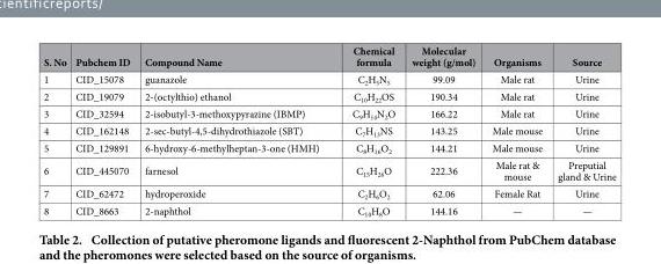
<table><thead><tr><td>S. No</td><td>Pubchem ID</td><td>Compound Name</td><td>Chemical formula</td><td>Molecular weight (g/mol)</td><td>Organisms</td><td>Source</td></tr></thead><tbody><tr><td>1</td><td>CID_15078</td><td>guanazole</td><td>C<sub>2</sub>H<sub>5</sub>N<sub>5</sub></td><td>99.09</td><td>Male rat</td><td>Urine</td></tr><tr><td>2</td><td>CID_19079</td><td>2-(octylthio) ethanol</td><td>C<sub>10</sub>H<sub>22</sub>OS</td><td>190.34</td><td>Male rat</td><td>Urine</td></tr><tr><td>3</td><td>CID_32594</td><td>2-isobutyl-3-methoxypyrazine (IBMP)</td><td>C<sub>9</sub>H<sub>14</sub>N<sub>2</sub>O</td><td>166.22</td><td>Male rat</td><td>Urine</td></tr><tr><td>4</td><td>CID_162148</td><td>2-sec-butyl-4,5-dihydrothiazole (SBT)</td><td>C<sub>7</sub>H<sub>13</sub>NS</td><td>143.25</td><td>Male mouse</td><td>Urine</td></tr><tr><td>5</td><td>CID_129891</td><td>6-hydroxy-6-methylheptan-3-one (HMH)</td><td>C<sub>8</sub>H<sub>16</sub>O<sub>2</sub></td><td>144.21</td><td>Male mouse</td><td>Urine</td></tr><tr><td>6</td><td>CID_445070</td><td>farnesol</td><td>C<sub>15</sub>H<sub>26</sub>O</td><td>222.36</td><td>Male rat &amp; mouse</td><td>Preputial gland &amp; Urine</td></tr><tr><td>7</td><td>CID_62472</td><td>hydroperoxide</td><td>C<sub>2</sub>H<sub>6</sub>O<sub>2</sub></td><td>62.06</td><td>Female Rat</td><td>Urine</td></tr><tr><td>8</td><td>CID_8663</td><td>2-naphthol</td><td>C<sub>10</sub>H<sub>8</sub>O</td><td>144.16</td><td>—</td><td>—</td></tr></tbody></table>